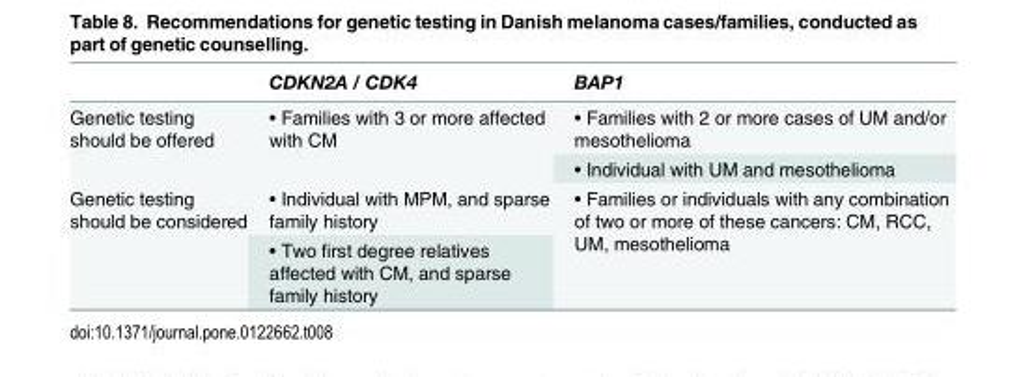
<table><thead><tr><td></td><td>CDKN2A / CDK4</td><td>BAP1</td></tr></thead><tbody><tr><td rowspan="2">Genetic testing should be offered</td><td rowspan="2">• Families with 3 or more affected with CM</td><td>• Families with 2 or more cases of UM and/or mesothelioma</td></tr><tr><td>• Individual with UM and mesothelioma</td></tr><tr><td rowspan="2">Genetic testing should be considered</td><td>• Individual with MPM, and sparse family history</td><td rowspan="2">• Families or individuals with any combination of two or more of these cancers: CM, RCC, UM, mesothelioma</td></tr><tr><td>• Two first degree relatives affected with CM, and sparse family history</td></tr></tbody></table>